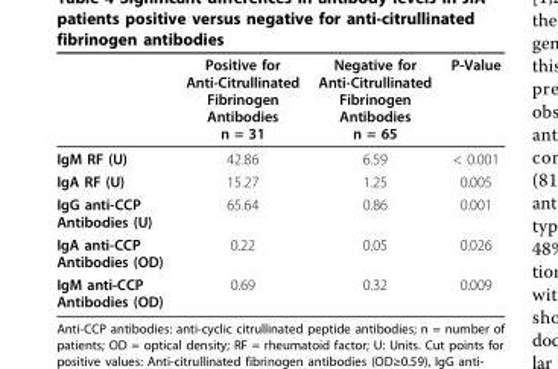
<table><thead><tr><td></td><td>Positive for Anti-Citrullinated Fibrinogen Antibodies n = 31</td><td>Negative for Anti-Citrullinated Fibrinogen Antibodies n = 65</td><td>P-Value</td></tr></thead><tbody><tr><td>IgM RF (U)</td><td>42.86</td><td>6.59</td><td>&lt; 0.001</td></tr><tr><td>IgA RF (U)</td><td>15.27</td><td>1.25</td><td>0.005</td></tr><tr><td>IgG anti-CCP Antibodies (U)</td><td>65.64</td><td>0.86</td><td>0.001</td></tr><tr><td>IgA anti-CCP Antibodies (OD)</td><td>0.22</td><td>0.05</td><td>0.026</td></tr><tr><td>IgM anti-CCP Antibodies (OD)</td><td>0.69</td><td>0.32</td><td>0.009</td></tr></tbody></table>